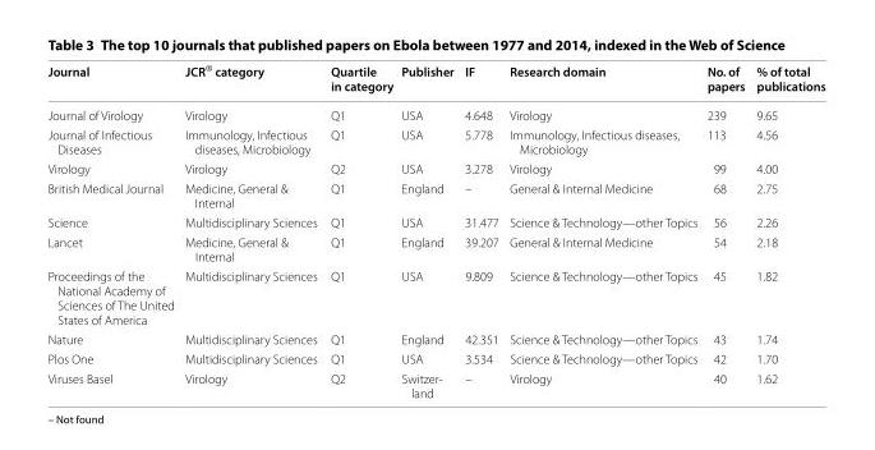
<table><thead><tr><td>Journal</td><td>JCR<sup>®</sup> category</td><td>Quartile in category</td><td>Publisher</td><td>IF</td><td>Research domain</td><td>No. of papers</td><td>% of total publications</td></tr></thead><tbody><tr><td>Journal of Virology</td><td>Virology</td><td>Q1</td><td>USA</td><td>4.648</td><td>Virology</td><td>239</td><td>9.65</td></tr><tr><td>Journal of Infectious Diseases</td><td>Immunology, Infectious diseases, Microbiology</td><td>Q1</td><td>USA</td><td>5.778</td><td>Immunology, Infectious diseases, Microbiology</td><td>113</td><td>4.56</td></tr><tr><td>Virology</td><td>Virology</td><td>Q2</td><td>USA</td><td>3.278</td><td>Virology</td><td>99</td><td>4.00</td></tr><tr><td>British Medical Journal</td><td>Medicine, General &amp; Internal</td><td>Q1</td><td>England</td><td>–</td><td>General &amp; Internal Medicine</td><td>68</td><td>2.75</td></tr><tr><td>Science</td><td>Multidisciplinary Sciences</td><td>Q1</td><td>USA</td><td>31.477</td><td>Science &amp; Technology—other Topics</td><td>56</td><td>2.26</td></tr><tr><td>Lancet</td><td>Medicine, General &amp; Internal</td><td>Q1</td><td>England</td><td>39.207</td><td>General &amp; Internal Medicine</td><td>54</td><td>2.18</td></tr><tr><td>Proceedings of the National Academy of Sciences of The United States of America</td><td>Multidisciplinary Sciences</td><td>Q1</td><td>USA</td><td>9.809</td><td>Science &amp; Technology—other Topics</td><td>45</td><td>1.82</td></tr><tr><td>Nature</td><td>Multidisciplinary Sciences</td><td>Q1</td><td>England</td><td>42.351</td><td>Science &amp; Technology—other Topics</td><td>43</td><td>1.74</td></tr><tr><td>Plos One</td><td>Multidisciplinary Sciences</td><td>Q1</td><td>USA</td><td>3.534</td><td>Science &amp; Technology—other Topics</td><td>42</td><td>1.70</td></tr><tr><td>Viruses Basel</td><td>Virology</td><td>Q2</td><td>Switzer- land</td><td>–</td><td>Virology</td><td>40</td><td>1.62</td></tr></tbody></table>